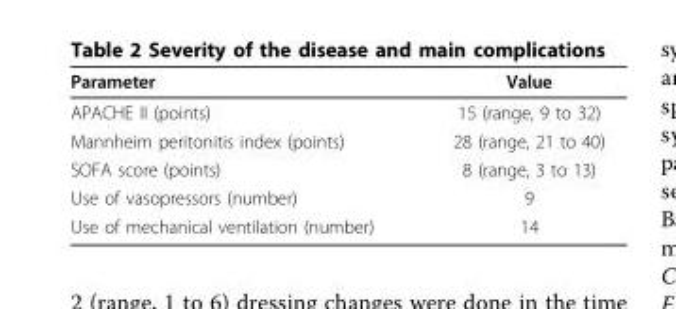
<table><thead><tr><td>Parameter</td><td>Value</td></tr></thead><tbody><tr><td>APACHE II (points)</td><td>15 (range, 9 to 32)</td></tr><tr><td>Mannheim peritonitis index (points)</td><td>28 (range, 21 to 40)</td></tr><tr><td>SOFA score (points)</td><td>8 (range, 3 to 13)</td></tr><tr><td>Use of vasopressors (number)</td><td>9</td></tr><tr><td>Use of mechanical ventilation (number)</td><td>14</td></tr></tbody></table>